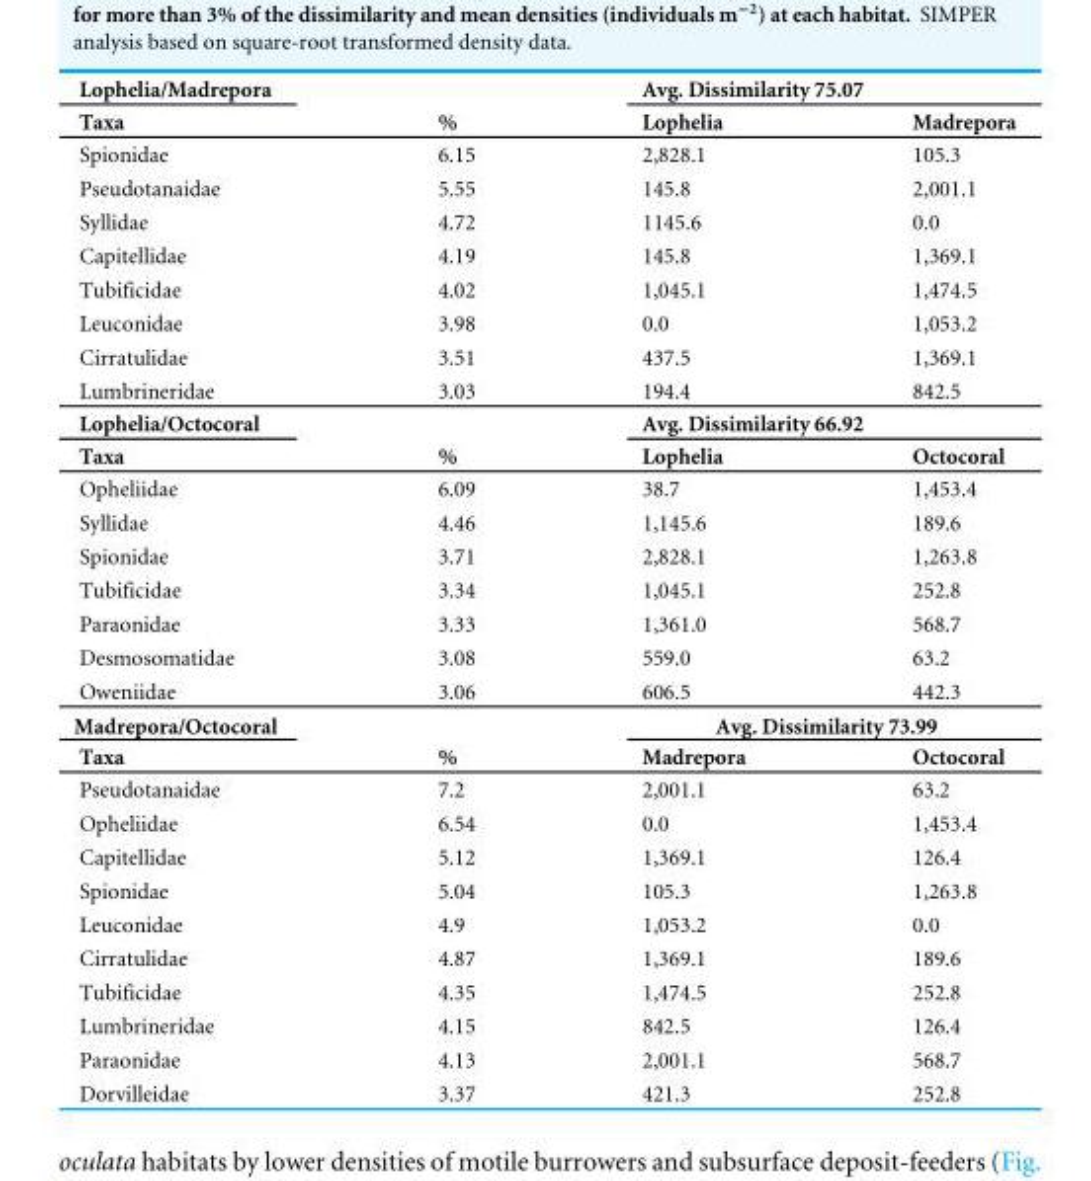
<table><tbody><tr><td>Lophelia/Madrepora</td><td></td><td colspan="2">Avg. Dissimilarity 75.07</td></tr><tr><td>Taxa</td><td>%</td><td>Lophelia</td><td>Madrepora</td></tr><tr><td>Spionidae</td><td>6.15</td><td>2,828.1</td><td>105.3</td></tr><tr><td>Pseudotanaidae</td><td>5.55</td><td>145.8</td><td>2,001.1</td></tr><tr><td>Syllidae</td><td>4.72</td><td>1145.6</td><td>0.0</td></tr><tr><td>Capitellidae</td><td>4.19</td><td>145.8</td><td>1,369.1</td></tr><tr><td>Tubificidae</td><td>4.02</td><td>1,045.1</td><td>1,474.5</td></tr><tr><td>Leuconidae</td><td>3.98</td><td>0.0</td><td>1,053.2</td></tr><tr><td>Cirratulidae</td><td>3.51</td><td>437.5</td><td>1,369.1</td></tr><tr><td>Lumbrineridae</td><td>3.03</td><td>194.4</td><td>842.5</td></tr><tr><td>Lophelia/Octocoral</td><td></td><td colspan="2">Avg. Dissimilarity 66.92</td></tr><tr><td>Taxa</td><td>%</td><td>Lophelia</td><td>Octocoral</td></tr><tr><td>Opheliidae</td><td>6.09</td><td>38.7</td><td>1,453.4</td></tr><tr><td>Syllidae</td><td>4.46</td><td>1,145.6</td><td>189.6</td></tr><tr><td>Spionidae</td><td>3.71</td><td>2,828.1</td><td>1,263.8</td></tr><tr><td>Tubificidae</td><td>3.34</td><td>1,045.1</td><td>252.8</td></tr><tr><td>Paraonidae</td><td>3.33</td><td>1,361.0</td><td>568.7</td></tr><tr><td>Desmosomatidae</td><td>3.08</td><td>559.0</td><td>63.2</td></tr><tr><td>Oweniidae</td><td>3.06</td><td>606.5</td><td>442.3</td></tr><tr><td colspan="2">Madrepora/Octocoral</td><td colspan="2">Avg. Dissimilarity 73.99</td></tr><tr><td>Taxa</td><td>%</td><td>Madrepora</td><td>Octocoral</td></tr><tr><td>Pseudotanaidae</td><td>7.2</td><td>2,001.1</td><td>63.2</td></tr><tr><td>Opheliidae</td><td>6.54</td><td>0.0</td><td>1,453.4</td></tr><tr><td>Capitellidae</td><td>5.12</td><td>1,369.1</td><td>126.4</td></tr><tr><td>Spionidae</td><td>5.04</td><td>105.3</td><td>1,263.8</td></tr><tr><td>Leuconidae</td><td>4.9</td><td>1,053.2</td><td>0.0</td></tr><tr><td>Cirratulidae</td><td>4.87</td><td>1,369.1</td><td>189.6</td></tr><tr><td>Tubificidae</td><td>4.35</td><td>1,474.5</td><td>252.8</td></tr><tr><td>Lumbrineridae</td><td>4.15</td><td>842.5</td><td>126.4</td></tr><tr><td>Paraonidae</td><td>4.13</td><td>2,001.1</td><td>568.7</td></tr><tr><td>Dorvilleidae</td><td>3.37</td><td>421.3</td><td>252.8</td></tr></tbody></table>